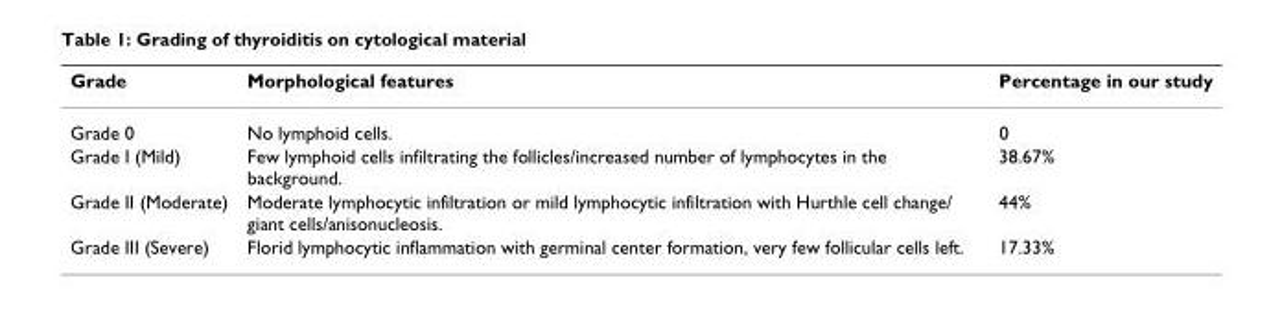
<table><thead><tr><td>Grade</td><td>Morphological features</td><td>Percentage in our study</td></tr></thead><tbody><tr><td>Grade 0</td><td>No lymphoid cells.</td><td>0</td></tr><tr><td>Grade I (Mild)</td><td>Few lymphoid cells infiltrating the follicles/increased number of lymphocytes in the background.</td><td>38.67%</td></tr><tr><td>Grade II (Moderate)</td><td>Moderate lymphocytic infiltration or mild lymphocytic infiltration with Hurthle cell change/ giant cells/anisonucleosis.</td><td>44%</td></tr><tr><td>Grade III (Severe)</td><td>Florid lymphocytic inflammation with germinal center formation, very few follicular cells left.</td><td>17.33%</td></tr></tbody></table>